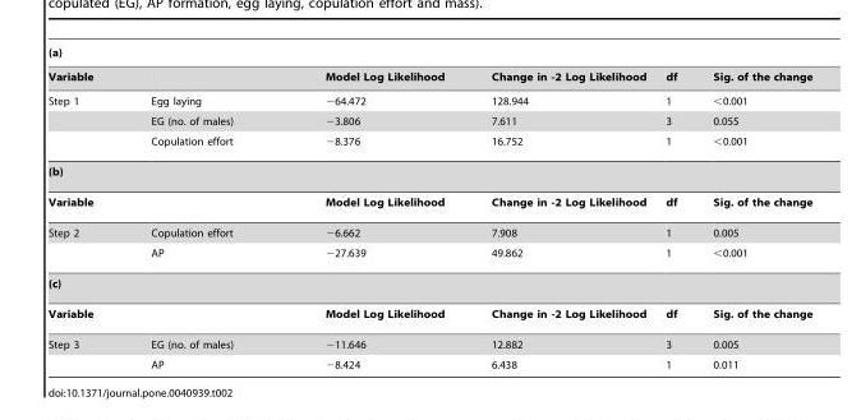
<table><thead><tr><td colspan="6">(a)</td></tr><tr><td>Variable</td><td></td><td>Model Log Likelihood</td><td>Change in -2 Log Likelihood</td><td>df</td><td>Sig. of the change</td></tr></thead><tbody><tr><td rowspan="3">Step 1</td><td>Egg laying</td><td>−64.472</td><td>128.944</td><td>1</td><td>&lt;0.001</td></tr><tr><td>EG (no. of males)</td><td>−3.806</td><td>7.611</td><td>3</td><td>0.055</td></tr><tr><td>Copulation effort</td><td>−8.376</td><td>16.752</td><td>1</td><td>&lt;0.001</td></tr><tr><td colspan="6">(b)</td></tr><tr><td>Variable</td><td></td><td>Model Log Likelihood</td><td>Change in -2 Log Likelihood</td><td>df</td><td>Sig. of the change</td></tr><tr><td rowspan="2">Step 2</td><td>Copulation effort</td><td>−6.662</td><td>7.908</td><td>1</td><td>0.005</td></tr><tr><td>AP</td><td>−27.639</td><td>49.862</td><td>1</td><td>&lt;0.001</td></tr><tr><td colspan="6">(c)</td></tr><tr><td>Variable</td><td></td><td>Model Log Likelihood</td><td>Change in -2 Log Likelihood</td><td>df</td><td>Sig. of the change</td></tr><tr><td rowspan="2">Step 3</td><td>EG (no. of males)</td><td>−11.646</td><td>12.882</td><td>3</td><td>0.005</td></tr><tr><td>AP</td><td>−8.424</td><td>6.438</td><td>1</td><td>0.011</td></tr></tbody></table>